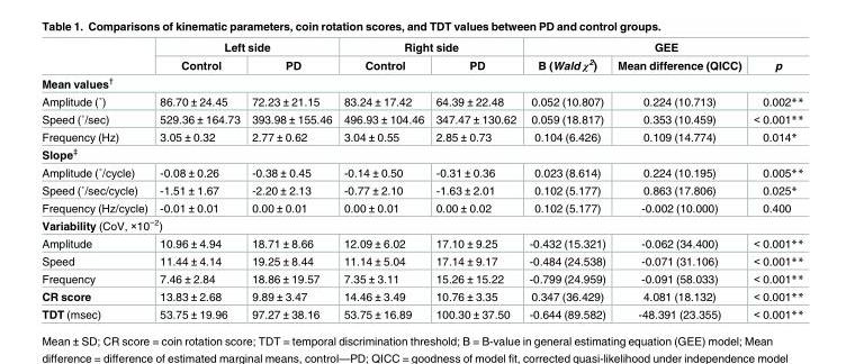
<table><thead><tr><td rowspan="2"></td><td colspan="2">Left side</td><td colspan="2">Right side</td><td colspan="3">GEE</td></tr><tr><td>Control</td><td>PD</td><td>Control</td><td>PD</td><td>B (Wald χ<sup>2</sup>)</td><td>Mean difference (QICC)</td><td>p</td></tr></thead><tbody><tr><td colspan="8">Mean values<sup>†</sup></td></tr><tr><td>Amplitude (˚)</td><td>86.70 ± 24.45</td><td>72.23 ± 21.15</td><td>83.24 ± 17.42</td><td>64.39 ± 22.48</td><td>0.052 (10.807)</td><td>0.224 (10.713)</td><td>0.002**</td></tr><tr><td>Speed (˚/sec)</td><td>529.36 ± 164.73</td><td>393.98 ± 155.46</td><td>496.93 ± 104.46</td><td>347.47 ± 130.62</td><td>0.059 (18.817)</td><td>0.353 (10.459)</td><td>&lt; 0.001**</td></tr><tr><td>Frequency (Hz)</td><td>3.05 ± 0.32</td><td>2.77 ± 0.62</td><td>3.04 ± 0.55</td><td>2.85 ± 0.73</td><td>0.104 (6.426)</td><td>0.109 (14.774)</td><td>0.014*</td></tr><tr><td colspan="8">Slope<sup>‡</sup></td></tr><tr><td>Amplitude (˚/cycle)</td><td>-0.08 ± 0.26</td><td>-0.38 ± 0.45</td><td>-0.14 ± 0.50</td><td>-0.31 ± 0.36</td><td>0.023 (8.614)</td><td>0.224 (10.195)</td><td>0.005**</td></tr><tr><td>Speed (˚/sec/cycle)</td><td>-1.51 ± 1.67</td><td>-2.20 ± 2.13</td><td>-0.77 ± 2.10</td><td>-1.63 ± 2.01</td><td>0.102 (5.177)</td><td>0.863 (17.806)</td><td>0.025*</td></tr><tr><td>Frequency (Hz/cycle)</td><td>-0.01 ± 0.01</td><td>0.00 ± 0.01</td><td>0.00 ± 0.01</td><td>0.00 ± 0.02</td><td>0.102 (5.177)</td><td>-0.002 (10.000)</td><td>0.400</td></tr><tr><td colspan="8">Variability (CoV, ×10<sup>−2</sup>)</td></tr><tr><td>Amplitude</td><td>10.96 ± 4.94</td><td>18.71 ± 8.66</td><td>12.09 ± 6.02</td><td>17.10 ± 9.25</td><td>-0.432 (15.321)</td><td>-0.062 (34.400)</td><td>&lt; 0.001**</td></tr><tr><td>Speed</td><td>11.44 ± 4.14</td><td>19.25 ± 8.44</td><td>11.14 ± 5.04</td><td>17.14 ± 9.17</td><td>-0.484 (24.538)</td><td>-0.071 (31.106)</td><td>&lt; 0.001**</td></tr><tr><td>Frequency</td><td>7.46 ± 2.84</td><td>18.86 ± 19.57</td><td>7.35 ± 3.11</td><td>15.26 ± 15.22</td><td>-0.799 (24.959)</td><td>-0.091 (58.033)</td><td>&lt; 0.001**</td></tr><tr><td>CR score</td><td>13.83 ± 2.68</td><td>9.89 ± 3.47</td><td>14.46 ± 3.49</td><td>10.76 ± 3.35</td><td>0.347 (36.429)</td><td>4.081 (18.132)</td><td>&lt; 0.001**</td></tr><tr><td>TDT (msec)</td><td>53.75 ± 19.96</td><td>97.27 ± 38.16</td><td>53.75 ± 16.89</td><td>100.30 ± 37.50</td><td>-0.644 (89.582)</td><td>-48.391 (23.355)</td><td>&lt; 0.001**</td></tr></tbody></table>